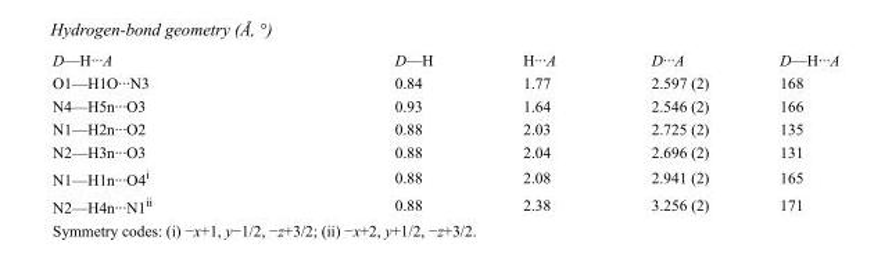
<table><tbody><tr><td>D—H···A</td><td>D—H</td><td>H···A</td><td>D···A</td><td>D—H···A</td></tr><tr><td>O1—H1O···N3</td><td>0.84</td><td>1.77</td><td>2.597 (2)</td><td>168</td></tr><tr><td>N4—H5n···O3</td><td>0.93</td><td>1.64</td><td>2.546 (2)</td><td>166</td></tr><tr><td>N1—H2n···O2</td><td>0.88</td><td>2.03</td><td>2.725 (2)</td><td>135</td></tr><tr><td>N2—H3n···O3</td><td>0.88</td><td>2.04</td><td>2.696 (2)</td><td>131</td></tr><tr><td>N1—H1n···O4<sup>i</sup></td><td>0.88</td><td>2.08</td><td>2.941 (2)</td><td>165</td></tr><tr><td>N2—H4n···N1<sup>ii</sup></td><td>0.88</td><td>2.38</td><td>3.256 (2)</td><td>171</td></tr></tbody></table>